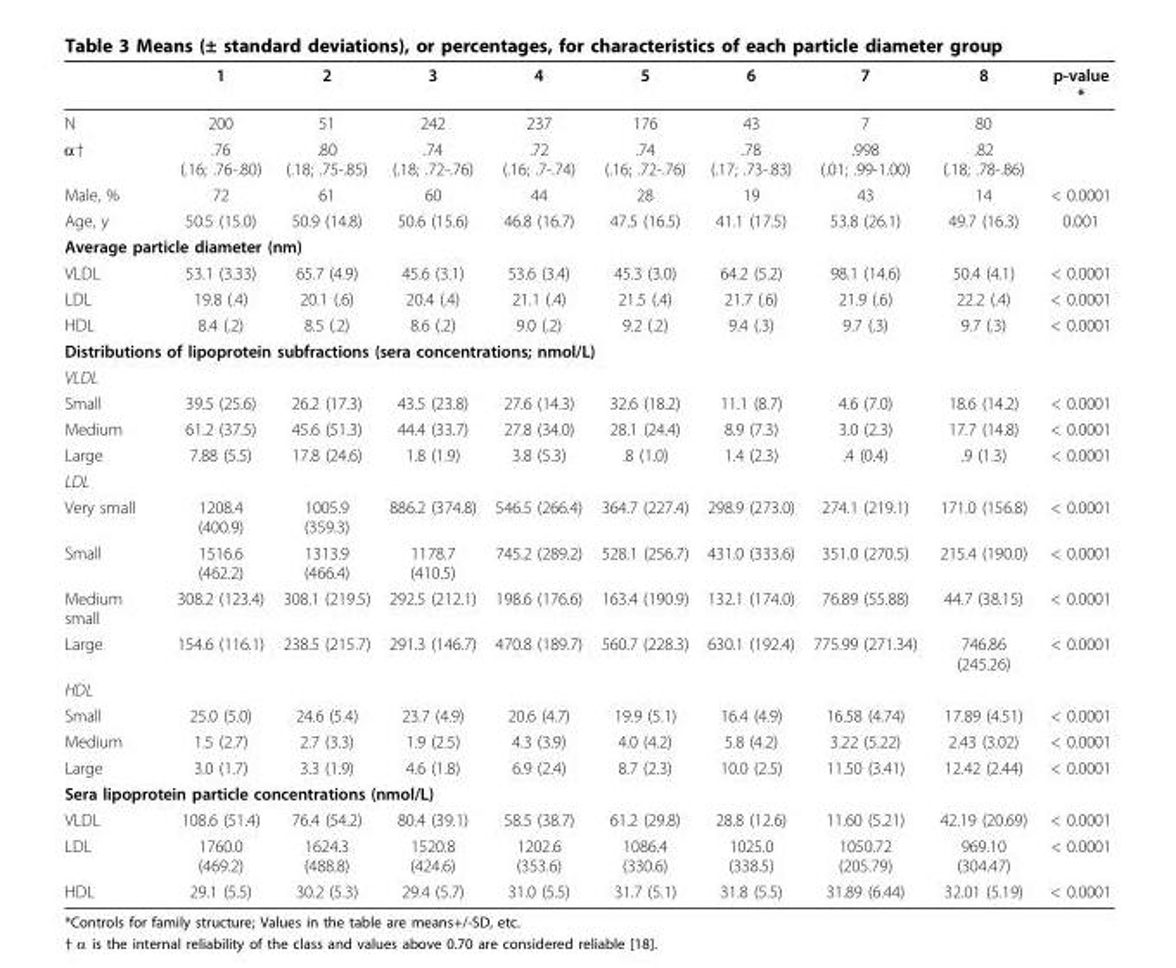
<table><thead><tr><td></td><td>1</td><td>2</td><td>3</td><td>4</td><td>5</td><td>6</td><td>7</td><td>8</td><td>p-value *</td></tr></thead><tbody><tr><td>N</td><td>200</td><td>51</td><td>242</td><td>237</td><td>176</td><td>43</td><td>7</td><td>80</td><td></td></tr><tr><td>α†</td><td>.76 (.16; .76-.80)</td><td>.80 (.18; .75-.85)</td><td>.74 (.18; .72-.76)</td><td>.72 (.16; .7-.74)</td><td>.74 (.16; .72-.76)</td><td>.78 (.17; .73-.83)</td><td>.998 (.01; .99-1.00)</td><td>.82 (.18; .78-.86)</td><td></td></tr><tr><td>Male, %</td><td>72</td><td>61</td><td>60</td><td>44</td><td>28</td><td>19</td><td>43</td><td>14</td><td>&lt; 0.0001</td></tr><tr><td>Age, y</td><td>50.5 (15.0)</td><td>50.9 (14.8)</td><td>50.6 (15.6)</td><td>46.8 (16.7)</td><td>47.5 (16.5)</td><td>41.1 (17.5)</td><td>53.8 (26.1)</td><td>49.7 (16.3)</td><td>0.001</td></tr><tr><td colspan="10">Average particle diameter (nm)</td></tr><tr><td>VLDL</td><td>53.1 (3.33)</td><td>65.7 (4.9)</td><td>45.6 (3.1)</td><td>53.6 (3.4)</td><td>45.3 (3.0)</td><td>64.2 (5.2)</td><td>98.1 (14.6)</td><td>50.4 (4.1)</td><td>&lt; 0.0001</td></tr><tr><td>LDL</td><td>19.8 (.4)</td><td>20.1 (.6)</td><td>20.4 (.4)</td><td>21.1 (.4)</td><td>21.5 (.4)</td><td>21.7 (.6)</td><td>21.9 (.6)</td><td>22.2 (.4)</td><td>&lt; 0.0001</td></tr><tr><td>HDL</td><td>8.4 (.2)</td><td>8.5 (.2)</td><td>8.6 (.2)</td><td>9.0 (.2)</td><td>9.2 (.2)</td><td>9.4 (.3)</td><td>9.7 (.3)</td><td>9.7 (.3)</td><td>&lt; 0.0001</td></tr><tr><td colspan="10">Distributions of lipoprotein subfractions (sera concentrations; nmol/L)</td></tr><tr><td colspan="10">VLDL</td></tr><tr><td>Small</td><td>39.5 (25.6)</td><td>26.2 (17.3)</td><td>43.5 (23.8)</td><td>27.6 (14.3)</td><td>32.6 (18.2)</td><td>11.1 (8.7)</td><td>4.6 (7.0)</td><td>18.6 (14.2)</td><td>&lt; 0.0001</td></tr><tr><td>Medium</td><td>61.2 (37.5)</td><td>45.6 (51.3)</td><td>44.4 (33.7)</td><td>27.8 (34.0)</td><td>28.1 (24.4)</td><td>8.9 (7.3)</td><td>3.0 (2.3)</td><td>17.7 (14.8)</td><td>&lt; 0.0001</td></tr><tr><td>Large</td><td>7.88 (5.5)</td><td>17.8 (24.6)</td><td>1.8 (1.9)</td><td>3.8 (5.3)</td><td>.8 (1.0)</td><td>1.4 (2.3)</td><td>.4 (0.4)</td><td>.9 (1.3)</td><td>&lt; 0.0001</td></tr><tr><td colspan="10">LDL</td></tr><tr><td>Very small</td><td>1208.4 (400.9)</td><td>1005.9 (359.3)</td><td>886.2 (374.8)</td><td>546.5 (266.4)</td><td>364.7 (227.4)</td><td>298.9 (273.0)</td><td>274.1 (219.1)</td><td>171.0 (156.8)</td><td>&lt; 0.0001</td></tr><tr><td>Small</td><td>1516.6 (462.2)</td><td>1313.9 (466.4)</td><td>1178.7 (410.5)</td><td>745.2 (289.2)</td><td>528.1 (256.7)</td><td>431.0 (333.6)</td><td>351.0 (270.5)</td><td>215.4 (190.0)</td><td>&lt; 0.0001</td></tr><tr><td>Medium small</td><td>308.2 (123.4)</td><td>308.1 (219.5)</td><td>292.5 (212.1)</td><td>198.6 (176.6)</td><td>163.4 (190.9)</td><td>132.1 (174.0)</td><td>76.89 (55.88)</td><td>44.7 (38.15)</td><td>&lt; 0.0001</td></tr><tr><td>Large</td><td>154.6 (116.1)</td><td>238.5 (215.7)</td><td>291.3 (146.7)</td><td>470.8 (189.7)</td><td>560.7 (228.3)</td><td>630.1 (192.4)</td><td>775.99 (271.34)</td><td>746.86 (245.26)</td><td>&lt; 0.0001</td></tr><tr><td colspan="10">HDL</td></tr><tr><td>Small</td><td>25.0 (5.0)</td><td>24.6 (5.4)</td><td>23.7 (4.9)</td><td>20.6 (4.7)</td><td>19.9 (5.1)</td><td>16.4 (4.9)</td><td>16.58 (4.74)</td><td>17.89 (4.51)</td><td>&lt; 0.0001</td></tr><tr><td>Medium</td><td>1.5 (2.7)</td><td>2.7 (3.3)</td><td>1.9 (2.5)</td><td>4.3 (3.9)</td><td>4.0 (4.2)</td><td>5.8 (4.2)</td><td>3.22 (5.22)</td><td>2.43 (3.02)</td><td>&lt; 0.0001</td></tr><tr><td>Large</td><td>3.0 (1.7)</td><td>3.3 (1.9)</td><td>4.6 (1.8)</td><td>6.9 (2.4)</td><td>8.7 (2.3)</td><td>10.0 (2.5)</td><td>11.50 (3.41)</td><td>12.42 (2.44)</td><td>&lt; 0.0001</td></tr><tr><td colspan="10">Sera lipoprotein particle concentrations (nmol/L)</td></tr><tr><td>VLDL</td><td>108.6 (51.4)</td><td>76.4 (54.2)</td><td>80.4 (39.1)</td><td>58.5 (38.7)</td><td>61.2 (29.8)</td><td>28.8 (12.6)</td><td>11.60 (5.21)</td><td>42.19 (20.69)</td><td>&lt; 0.0001</td></tr><tr><td>LDL</td><td>1760.0 (469.2)</td><td>1624.3 (488.8)</td><td>1520.8 (424.6)</td><td>1202.6 (353.6)</td><td>1086.4 (330.6)</td><td>1025.0 (338.5)</td><td>1050.72 (205.79)</td><td>969.10 (304.47)</td><td>&lt; 0.0001</td></tr><tr><td>HDL</td><td>29.1 (5.5)</td><td>30.2 (5.3)</td><td>29.4 (5.7)</td><td>31.0 (5.5)</td><td>31.7 (5.1)</td><td>31.8 (5.5)</td><td>31.89 (6.44)</td><td>32.01 (5.19)</td><td>&lt; 0.0001</td></tr></tbody></table>